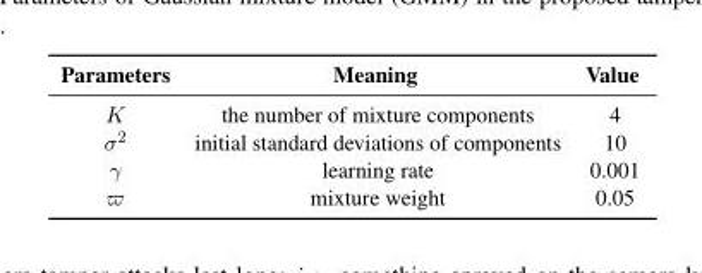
<table><thead><tr><td>Parameters</td><td>Meaning</td><td>Value</td></tr></thead><tbody><tr><td>K</td><td>the number of mixture components</td><td>4</td></tr><tr><td>σ<sup>2</sup></td><td>initial standard deviations of components</td><td>10</td></tr><tr><td>γ</td><td>learning rate</td><td>0.001</td></tr><tr><td>ϖ</td><td>mixture weight</td><td>0.05</td></tr></tbody></table>